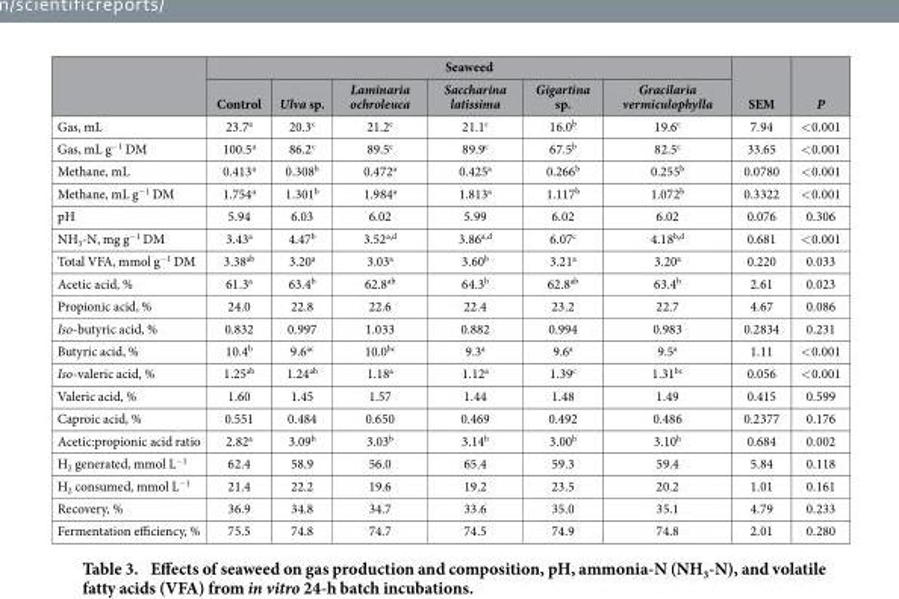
<table><thead><tr><td rowspan="2"></td><td colspan="6">Seaweed</td><td rowspan="2">SEM</td><td rowspan="2">P</td></tr><tr><td>Control</td><td>Ulva sp.</td><td>Laminaria ochroleuca</td><td>Saccharina latissima</td><td>Gigartina sp.</td><td>Gracilaria vermiculophylla</td></tr></thead><tbody><tr><td>Gas, mL</td><td>23.7<sup>a</sup></td><td>20.3<sup>c</sup></td><td>21.2<sup>c</sup></td><td>21.1<sup>c</sup></td><td>16.0<sup>b</sup></td><td>19.6<sup>c</sup></td><td>7.94</td><td>&lt; 0.001</td></tr><tr><td>Gas, mL g<sup>−1</sup> DM</td><td>100.5<sup>a</sup></td><td>86.2<sup>c</sup></td><td>89.5<sup>c</sup></td><td>89.9<sup>c</sup></td><td>67.5<sup>b</sup></td><td>82.5<sup>c</sup></td><td>33.65</td><td>&lt; 0.001</td></tr><tr><td>Methane, mL</td><td>0.413<sup>a</sup></td><td>0.308<sup>b</sup></td><td>0.472<sup>a</sup></td><td>0.425<sup>a</sup></td><td>0.266<sup>b</sup></td><td>0.255<sup>b</sup></td><td>0.0780</td><td>&lt; 0.001</td></tr><tr><td>Methane, mL g<sup>−1</sup> DM</td><td>1.754<sup>a</sup></td><td>1.301<sup>b</sup></td><td>1.984<sup>a</sup></td><td>1.813<sup>a</sup></td><td>1.117<sup>b</sup></td><td>1.072<sup>b</sup></td><td>0.3322</td><td>&lt; 0.001</td></tr><tr><td>pH</td><td>5.94</td><td>6.03</td><td>6.02</td><td>5.99</td><td>6.02</td><td>6.02</td><td>0.076</td><td>0.306</td></tr><tr><td>NH<sub>3</sub>-N, mg g<sup>−1</sup> DM</td><td>3.43<sup>a</sup></td><td>4.47<sup>b</sup></td><td>3.52<sup>a,d</sup></td><td>3.86<sup>a,d</sup></td><td>6.07<sup>c</sup></td><td>4.18<sup>b,d</sup></td><td>0.681</td><td>&lt; 0.001</td></tr><tr><td>Total VFA, mmol g<sup>−1</sup> DM</td><td>3.38<sup>ab</sup></td><td>3.20<sup>a</sup></td><td>3.03<sup>a</sup></td><td>3.60<sup>b</sup></td><td>3.21<sup>a</sup></td><td>3.20<sup>a</sup></td><td>0.220</td><td>0.033</td></tr><tr><td>Acetic acid, %</td><td>61.3<sup>a</sup></td><td>63.4<sup>b</sup></td><td>62.8<sup>ab</sup></td><td>64.3<sup>b</sup></td><td>62.8<sup>ab</sup></td><td>63.4<sup>b</sup></td><td>2.61</td><td>0.023</td></tr><tr><td>Propionic acid, %</td><td>24.0</td><td>22.8</td><td>22.6</td><td>22.4</td><td>23.2</td><td>22.7</td><td>4.67</td><td>0.086</td></tr><tr><td>Iso-butyric acid, %</td><td>0.832</td><td>0.997</td><td>1.033</td><td>0.882</td><td>0.994</td><td>0.983</td><td>0.2834</td><td>0.231</td></tr><tr><td>Butyric acid, %</td><td>10.4<sup>b</sup></td><td>9.6<sup>ac</sup></td><td>10.0<sup>bc</sup></td><td>9.3<sup>a</sup></td><td>9.6<sup>a</sup></td><td>9.5<sup>a</sup></td><td>1.11</td><td>&lt; 0.001</td></tr><tr><td>Iso-valeric acid, %</td><td>1.25<sup>ab</sup></td><td>1.24<sup>ab</sup></td><td>1.18<sup>a</sup></td><td>1.12<sup>a</sup></td><td>1.39<sup>c</sup></td><td>1.31<sup>bc</sup></td><td>0.056</td><td>&lt; 0.001</td></tr><tr><td>Valeric acid, %</td><td>1.60</td><td>1.45</td><td>1.57</td><td>1.44</td><td>1.48</td><td>1.49</td><td>0.415</td><td>0.599</td></tr><tr><td>Caproic acid, %</td><td>0.551</td><td>0.484</td><td>0.650</td><td>0.469</td><td>0.492</td><td>0.486</td><td>0.2377</td><td>0.176</td></tr><tr><td>Acetic:propionic acid ratio</td><td>2.82<sup>a</sup></td><td>3.09<sup>b</sup></td><td>3.03<sup>b</sup></td><td>3.14<sup>b</sup></td><td>3.00<sup>b</sup></td><td>3.10<sup>b</sup></td><td>0.684</td><td>0.002</td></tr><tr><td>H<sub>2</sub> generated, mmol L<sup>−1</sup></td><td>62.4</td><td>58.9</td><td>56.0</td><td>65.4</td><td>59.3</td><td>59.4</td><td>5.84</td><td>0.118</td></tr><tr><td>H<sub>2</sub> consumed, mmol L<sup>−1</sup></td><td>21.4</td><td>22.2</td><td>19.6</td><td>19.2</td><td>23.5</td><td>20.2</td><td>1.01</td><td>0.161</td></tr><tr><td>Recovery, %</td><td>36.9</td><td>34.8</td><td>34.7</td><td>33.6</td><td>35.0</td><td>35.1</td><td>4.79</td><td>0.233</td></tr><tr><td>Fermentation efficiency, %</td><td>75.5</td><td>74.8</td><td>74.7</td><td>74.5</td><td>74.9</td><td>74.8</td><td>2.01</td><td>0.280</td></tr></tbody></table>